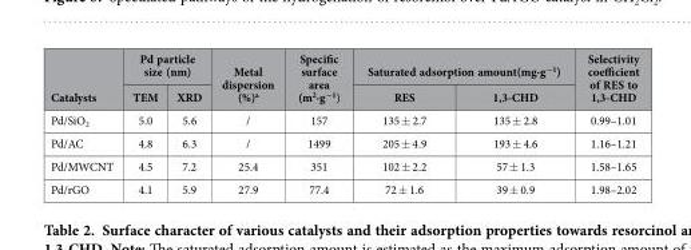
<table><thead><tr><td rowspan="2">Catalysts</td><td colspan="2">Pd particle size (nm)</td><td rowspan="2">Metal dispersion (%)<sup>a</sup></td><td rowspan="2">Specific surface area (m<sup>2</sup>·g<sup>−1</sup>)</td><td colspan="2">Saturated adsorption amount(mg·g<sup>−1</sup>)</td><td rowspan="2">Selectivity coefficient of RES to 1,3-CHD</td></tr><tr><td>TEM</td><td>XRD</td><td>RES</td><td>1,3-CHD</td></tr></thead><tbody><tr><td>Pd/SiO<sub>2</sub></td><td>5.0</td><td>5.6</td><td>/</td><td>157</td><td>135 ± 2.7</td><td>135 ± 2.8</td><td>0.99–1.01</td></tr><tr><td>Pd/AC</td><td>4.8</td><td>6.3</td><td>/</td><td>1499</td><td>205 ± 4.9</td><td>193 ± 4.6</td><td>1.16–1.21</td></tr><tr><td>Pd/MWCNT</td><td>4.5</td><td>7.2</td><td>25.4</td><td>351</td><td>102 ± 2.2</td><td>57 ± 1.3</td><td>1.58–1.65</td></tr><tr><td>Pd/rGO</td><td>4.1</td><td>5.9</td><td>27.9</td><td>77.4</td><td>72 ± 1.6</td><td>39 ± 0.9</td><td>1.98–2.02</td></tr></tbody></table>